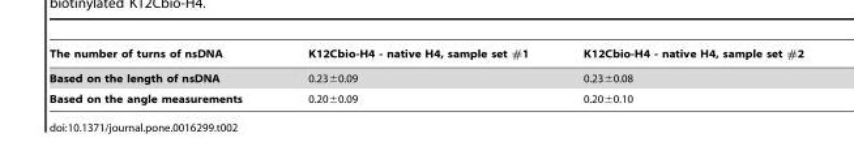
<table><thead><tr><td>The number of turns of nsDNA</td><td>K12Cbio-H4 - native H4, sample set #1</td><td>K12Cbio-H4 - native H4, sample set #2</td></tr></thead><tbody><tr><td>Based on the length of nsDNA</td><td>0.23±0.09</td><td>0.23±0.08</td></tr><tr><td>Based on the angle measurements</td><td>0.20±0.09</td><td>0.20±0.10</td></tr></tbody></table>